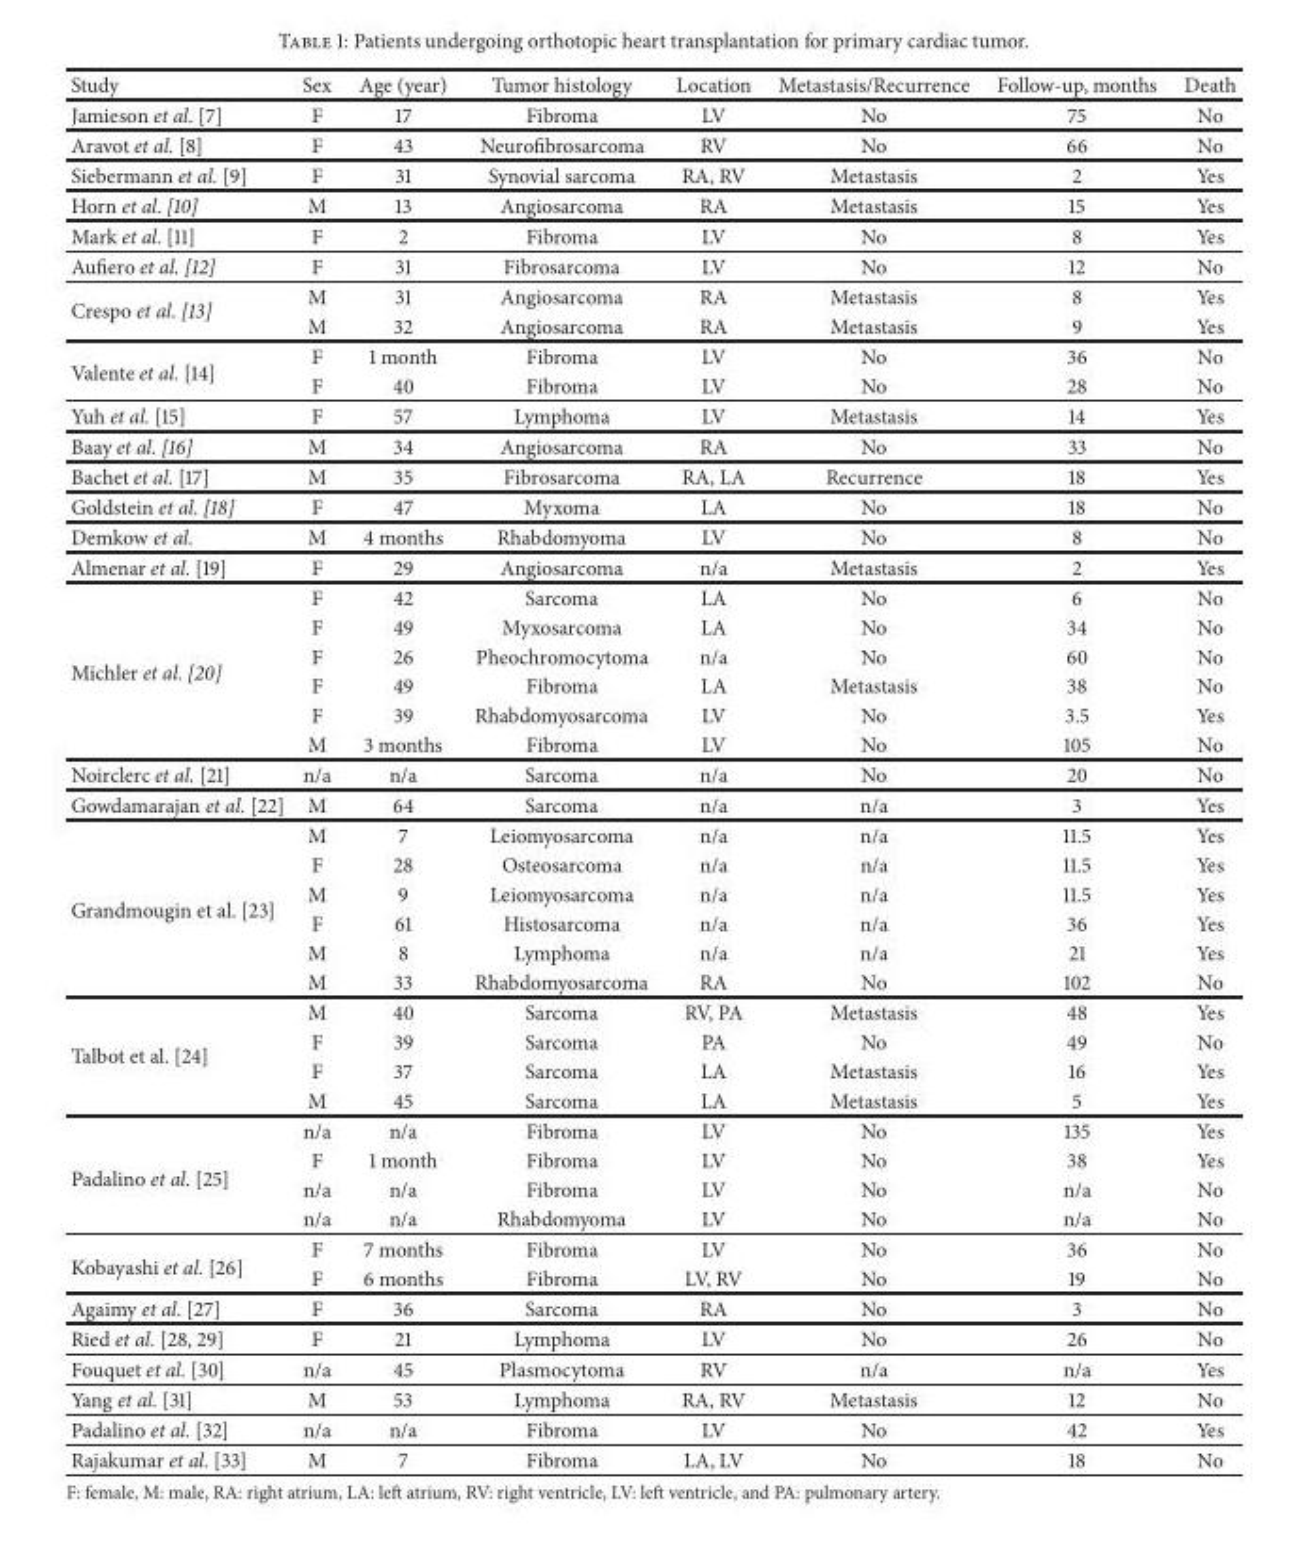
<table><thead><tr><td>Study</td><td>Sex</td><td>Age (year)</td><td>Tumor histology</td><td>Location</td><td>Metastasis/Recurrence</td><td>Follow-up, months</td><td>Death</td></tr></thead><tbody><tr><td>Jamieson et al. [7]</td><td>F</td><td>17</td><td>Fibroma</td><td>LV</td><td>No</td><td>75</td><td>No</td></tr><tr><td>Aravot et al. [8]</td><td>F</td><td>43</td><td>Neurofibrosarcoma</td><td>RV</td><td>No</td><td>66</td><td>No</td></tr><tr><td>Siebermann et al. [9]</td><td>F</td><td>31</td><td>Synovial sarcoma</td><td>RA, RV</td><td>Metastasis</td><td>2</td><td>Yes</td></tr><tr><td>Horn et al. [10]</td><td>M</td><td>13</td><td>Angiosarcoma</td><td>RA</td><td>Metastasis</td><td>15</td><td>Yes</td></tr><tr><td>Mark et al. [11]</td><td>F</td><td>2</td><td>Fibroma</td><td>LV</td><td>No</td><td>8</td><td>Yes</td></tr><tr><td>Aufiero et al. [12]</td><td>F</td><td>31</td><td>Fibrosarcoma</td><td>LV</td><td>No</td><td>12</td><td>No</td></tr><tr><td rowspan="2">Crespo et al. [13]</td><td>M</td><td>31</td><td>Angiosarcoma</td><td>RA</td><td>Metastasis</td><td>8</td><td>Yes</td></tr><tr><td>M</td><td>32</td><td>Angiosarcoma</td><td>RA</td><td>Metastasis</td><td>9</td><td>Yes</td></tr><tr><td rowspan="2">Valente et al. [14]</td><td>F</td><td>1 month</td><td>Fibroma</td><td>LV</td><td>No</td><td>36</td><td>No</td></tr><tr><td>F</td><td>40</td><td>Fibroma</td><td>LV</td><td>No</td><td>28</td><td>No</td></tr><tr><td>Yuh et al. [15]</td><td>F</td><td>57</td><td>Lymphoma</td><td>LV</td><td>Metastasis</td><td>14</td><td>Yes</td></tr><tr><td>Baay et al. [16]</td><td>M</td><td>34</td><td>Angiosarcoma</td><td>RA</td><td>No</td><td>33</td><td>No</td></tr><tr><td>Bachet et al. [17]</td><td>M</td><td>35</td><td>Fibrosarcoma</td><td>RA, LA</td><td>Recurrence</td><td>18</td><td>Yes</td></tr><tr><td>Goldstein et al. [18]</td><td>F</td><td>47</td><td>Myxoma</td><td>LA</td><td>No</td><td>18</td><td>No</td></tr><tr><td>Demkow et al.</td><td>M</td><td>4 months</td><td>Rhabdomyoma</td><td>LV</td><td>No</td><td>8</td><td>No</td></tr><tr><td>Almenar et al. [19]</td><td>F</td><td>29</td><td>Angiosarcoma</td><td>n/a</td><td>Metastasis</td><td>2</td><td>Yes</td></tr><tr><td rowspan="6">Michler et al. [20]</td><td>F</td><td>42</td><td>Sarcoma</td><td>LA</td><td>No</td><td>6</td><td>No</td></tr><tr><td>F</td><td>49</td><td>Myxosarcoma</td><td>LA</td><td>No</td><td>34</td><td>No</td></tr><tr><td>F</td><td>26</td><td>Pheochromocytoma</td><td>n/a</td><td>No</td><td>60</td><td>No</td></tr><tr><td>F</td><td>49</td><td>Fibroma</td><td>LA</td><td>Metastasis</td><td>38</td><td>No</td></tr><tr><td>F</td><td>39</td><td>Rhabdomyosarcoma</td><td>LV</td><td>No</td><td>3.5</td><td>Yes</td></tr><tr><td>M</td><td>3 months</td><td>Fibroma</td><td>LV</td><td>No</td><td>105</td><td>No</td></tr><tr><td>Noirclerc et al. [21]</td><td>n/a</td><td>n/a</td><td>Sarcoma</td><td>n/a</td><td>No</td><td>20</td><td>No</td></tr><tr><td>Gowdamarajan et al. [22]</td><td>M</td><td>64</td><td>Sarcoma</td><td>n/a</td><td>n/a</td><td>3</td><td>Yes</td></tr><tr><td rowspan="6">Grandmougin et al. [23]</td><td>M</td><td>7</td><td>Leiomyosarcoma</td><td>n/a</td><td>n/a</td><td>11.5</td><td>Yes</td></tr><tr><td>F</td><td>28</td><td>Osteosarcoma</td><td>n/a</td><td>n/a</td><td>11.5</td><td>Yes</td></tr><tr><td>M</td><td>9</td><td>Leiomyosarcoma</td><td>n/a</td><td>n/a</td><td>11.5</td><td>Yes</td></tr><tr><td>F</td><td>61</td><td>Histosarcoma</td><td>n/a</td><td>n/a</td><td>36</td><td>Yes</td></tr><tr><td>M</td><td>8</td><td>Lymphoma</td><td>n/a</td><td>n/a</td><td>21</td><td>Yes</td></tr><tr><td>M</td><td>33</td><td>Rhabdomyosarcoma</td><td>RA</td><td>No</td><td>102</td><td>No</td></tr><tr><td rowspan="4">Talbot et al. [24]</td><td>M</td><td>40</td><td>Sarcoma</td><td>RV, PA</td><td>Metastasis</td><td>48</td><td>Yes</td></tr><tr><td>F</td><td>39</td><td>Sarcoma</td><td>PA</td><td>No</td><td>49</td><td>No</td></tr><tr><td>F</td><td>37</td><td>Sarcoma</td><td>LA</td><td>Metastasis</td><td>16</td><td>Yes</td></tr><tr><td>M</td><td>45</td><td>Sarcoma</td><td>LA</td><td>Metastasis</td><td>5</td><td>Yes</td></tr><tr><td rowspan="4">Padalino et al. [25]</td><td>n/a</td><td>n/a</td><td>Fibroma</td><td>LV</td><td>No</td><td>135</td><td>Yes</td></tr><tr><td>F</td><td>1 month</td><td>Fibroma</td><td>LV</td><td>No</td><td>38</td><td>Yes</td></tr><tr><td>n/a</td><td>n/a</td><td>Fibroma</td><td>LV</td><td>No</td><td>n/a</td><td>No</td></tr><tr><td>n/a</td><td>n/a</td><td>Rhabdomyoma</td><td>LV</td><td>No</td><td>n/a</td><td>No</td></tr><tr><td rowspan="2">Kobayashi et al. [26]</td><td>F</td><td>7 months</td><td>Fibroma</td><td>LV</td><td>No</td><td>36</td><td>No</td></tr><tr><td>F</td><td>6 months</td><td>Fibroma</td><td>LV, RV</td><td>No</td><td>19</td><td>No</td></tr><tr><td>Agaimy et al. [27]</td><td>F</td><td>36</td><td>Sarcoma</td><td>RA</td><td>No</td><td>3</td><td>No</td></tr><tr><td>Ried et al. [28, 29]</td><td>F</td><td>21</td><td>Lymphoma</td><td>LV</td><td>No</td><td>26</td><td>No</td></tr><tr><td>Fouquet et al. [30]</td><td>n/a</td><td>45</td><td>Plasmocytoma</td><td>RV</td><td>n/a</td><td>n/a</td><td>Yes</td></tr><tr><td>Yang et al. [31]</td><td>M</td><td>53</td><td>Lymphoma</td><td>RA, RV</td><td>Metastasis</td><td>12</td><td>No</td></tr><tr><td>Padalino et al. [32]</td><td>n/a</td><td>n/a</td><td>Fibroma</td><td>LV</td><td>No</td><td>42</td><td>Yes</td></tr><tr><td>Rajakumar et al. [33]</td><td>M</td><td>7</td><td>Fibroma</td><td>LA, LV</td><td>No</td><td>18</td><td>No</td></tr></tbody></table>